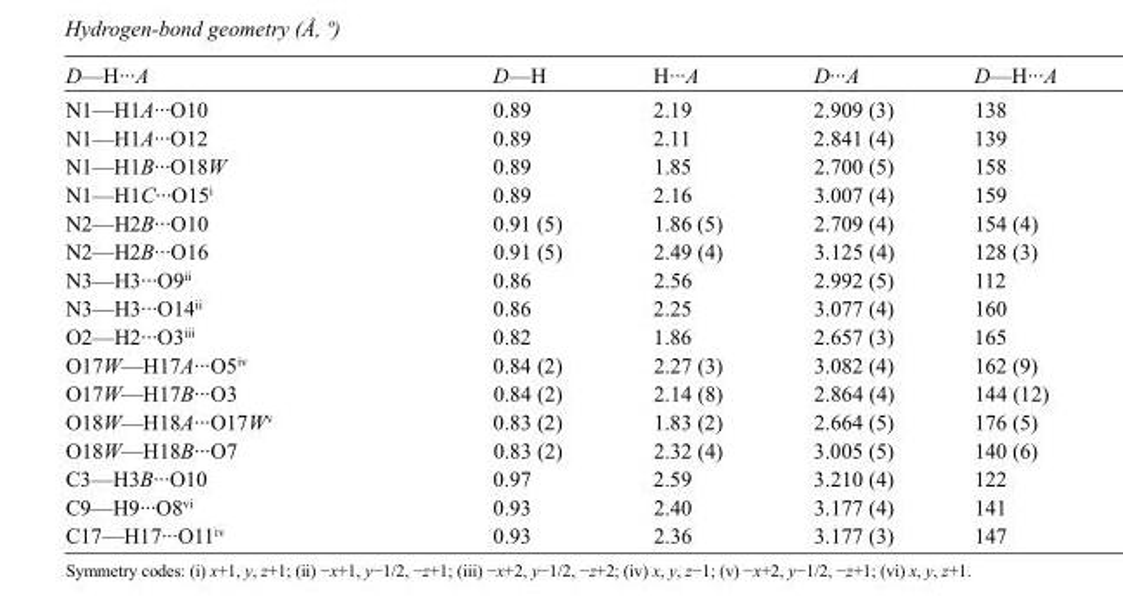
<table><tbody><tr><td>D—H···A</td><td>D—H</td><td>H···A</td><td>D···A</td><td>D—H···A</td></tr><tr><td>N1—H1A···O10</td><td>0.89</td><td>2.19</td><td>2.909 (3)</td><td>138</td></tr><tr><td>N1—H1A···O12</td><td>0.89</td><td>2.11</td><td>2.841 (4)</td><td>139</td></tr><tr><td>N1—H1B···O18W</td><td>0.89</td><td>1.85</td><td>2.700 (5)</td><td>158</td></tr><tr><td>N1—H1C···O15<sup>i</sup></td><td>0.89</td><td>2.16</td><td>3.007 (4)</td><td>159</td></tr><tr><td>N2—H2B···O10</td><td>0.91 (5)</td><td>1.86 (5)</td><td>2.709 (4)</td><td>154 (4)</td></tr><tr><td>N2—H2B···O16</td><td>0.91 (5)</td><td>2.49 (4)</td><td>3.125 (4)</td><td>128 (3)</td></tr><tr><td>N3—H3···O9<sup>ii</sup></td><td>0.86</td><td>2.56</td><td>2.992 (5)</td><td>112</td></tr><tr><td>N3—H3···O14<sup>ii</sup></td><td>0.86</td><td>2.25</td><td>3.077 (4)</td><td>160</td></tr><tr><td>O2—H2···O3<sup>iii</sup></td><td>0.82</td><td>1.86</td><td>2.657 (3)</td><td>165</td></tr><tr><td>O17W—H17A···O5<sup>iv</sup></td><td>0.84 (2)</td><td>2.27 (3)</td><td>3.082 (4)</td><td>162 (9)</td></tr><tr><td>O17W—H17B···O3</td><td>0.84 (2)</td><td>2.14 (8)</td><td>2.864 (4)</td><td>144 (12)</td></tr><tr><td>O18W—H18A···O17W<sup>v</sup></td><td>0.83 (2)</td><td>1.83 (2)</td><td>2.664 (5)</td><td>176 (5)</td></tr><tr><td>O18W—H18B···O7</td><td>0.83 (2)</td><td>2.32 (4)</td><td>3.005 (5)</td><td>140 (6)</td></tr><tr><td>C3—H3B···O10</td><td>0.97</td><td>2.59</td><td>3.210 (4)</td><td>122</td></tr><tr><td>C9—H9···O8<sup>vi</sup></td><td>0.93</td><td>2.40</td><td>3.177 (4)</td><td>141</td></tr><tr><td>C17—H17···O11<sup>iv</sup></td><td>0.93</td><td>2.36</td><td>3.177 (3)</td><td>147</td></tr></tbody></table>